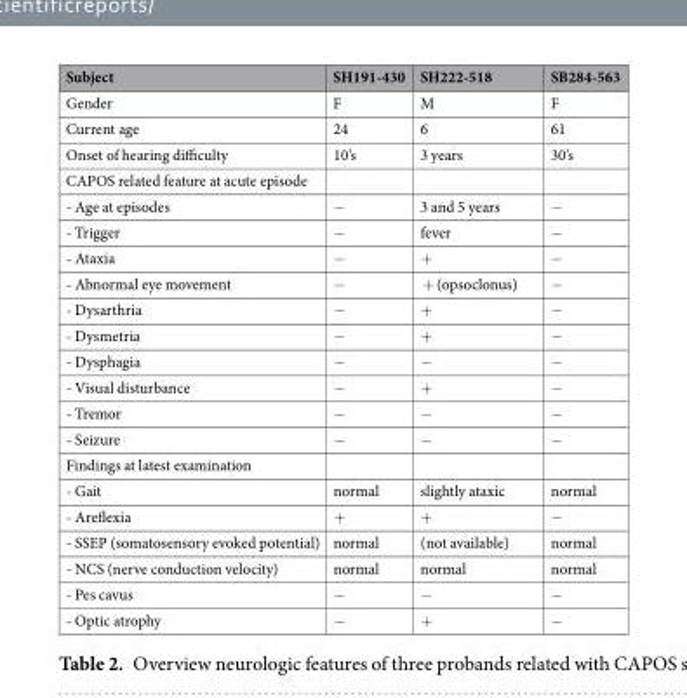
<table><thead><tr><td>Subject</td><td>SH191-430</td><td>SH222-518</td><td>SB284-563</td></tr></thead><tbody><tr><td>Gender</td><td>F</td><td>M</td><td>F</td></tr><tr><td>Current age</td><td>24</td><td>6</td><td>61</td></tr><tr><td>Onset of hearing difficulty</td><td>10’s</td><td>3 years</td><td>30’s</td></tr><tr><td colspan="4">CAPOS related feature at acute episode</td></tr><tr><td>- Age at episodes</td><td>−</td><td>3 and 5 years</td><td>−</td></tr><tr><td>- Trigger</td><td>−</td><td>fever</td><td>−</td></tr><tr><td>- Ataxia</td><td>−</td><td>+</td><td>−</td></tr><tr><td>- Abnormal eye movement</td><td>−</td><td>+ (opsoclonus)</td><td>−</td></tr><tr><td>- Dysarthria</td><td>−</td><td>+</td><td>−</td></tr><tr><td>- Dysmetria</td><td>−</td><td>+</td><td>−</td></tr><tr><td>- Dysphagia</td><td>−</td><td>−</td><td>−</td></tr><tr><td>- Visual disturbance</td><td>−</td><td>+</td><td>−</td></tr><tr><td>- Tremor</td><td>−</td><td>−</td><td>−</td></tr><tr><td>- Seizure</td><td>−</td><td>−</td><td>−</td></tr><tr><td colspan="4">Findings at latest examination</td></tr><tr><td>- Gait</td><td>normal</td><td>slightly ataxic</td><td>normal</td></tr><tr><td>- Areflexia</td><td>+</td><td>+</td><td>−</td></tr><tr><td>- SSEP (somatosensory evoked potential)</td><td>normal</td><td>(not available)</td><td>normal</td></tr><tr><td>- NCS (nerve conduction velocity)</td><td>normal</td><td>normal</td><td>normal</td></tr><tr><td>- Pes cavus</td><td>−</td><td>−</td><td>−</td></tr><tr><td>- Optic atrophy</td><td>−</td><td>+</td><td>−</td></tr></tbody></table>